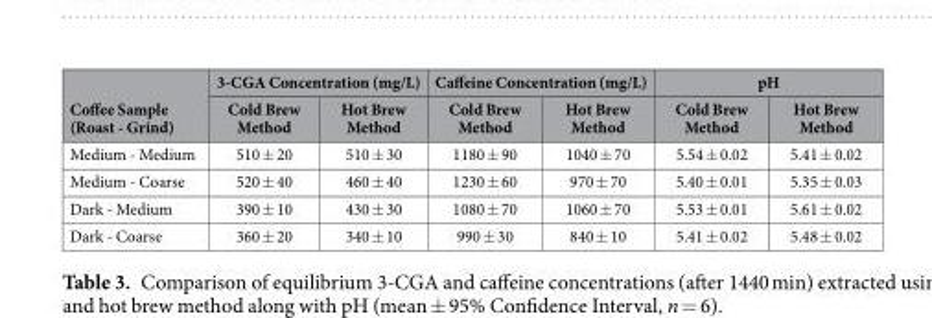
<table><thead><tr><td rowspan="2">Coffee Sample (Roast - Grind)</td><td colspan="2">3-CGA Concentration (mg/L)</td><td colspan="2">Caffeine Concentration (mg/L)</td><td colspan="2">pH</td></tr><tr><td>Cold Brew Method</td><td>Hot Brew Method</td><td>Cold Brew Method</td><td>Hot Brew Method</td><td>Cold Brew Method</td><td>Hot Brew Method</td></tr></thead><tbody><tr><td>Medium - Medium</td><td>510 ± 20</td><td>510 ± 30</td><td>1180 ± 90</td><td>1040 ± 70</td><td>5.54 ± 0.02</td><td>5.41 ± 0.02</td></tr><tr><td>Medium - Coarse</td><td>520 ± 40</td><td>460 ± 40</td><td>1230 ± 60</td><td>970 ± 70</td><td>5.40 ± 0.01</td><td>5.35 ± 0.03</td></tr><tr><td>Dark - Medium</td><td>390 ± 10</td><td>430 ± 30</td><td>1080 ± 70</td><td>1060 ± 70</td><td>5.53 ± 0.01</td><td>5.61 ± 0.02</td></tr><tr><td>Dark - Coarse</td><td>360 ± 20</td><td>340 ± 10</td><td>990 ± 30</td><td>840 ± 10</td><td>5.41 ± 0.02</td><td>5.48 ± 0.02</td></tr></tbody></table>